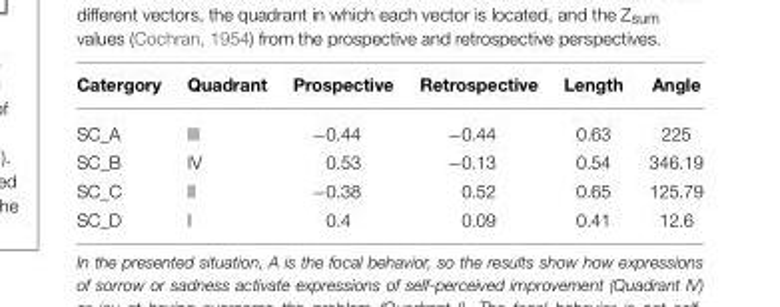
<table><thead><tr><td>Catergory</td><td>Quadrant</td><td>Prospective</td><td>Retrospective</td><td>Length</td><td>Angle</td></tr></thead><tbody><tr><td>SC_A</td><td>III</td><td>−0.44</td><td>−0.44</td><td>0.63</td><td>225</td></tr><tr><td>SC_B</td><td>IV</td><td>0.53</td><td>−0.13</td><td>0.54</td><td>346.19</td></tr><tr><td>SC_C</td><td>II</td><td>−0.38</td><td>0.52</td><td>0.65</td><td>125.79</td></tr><tr><td>SC_D</td><td>I</td><td>0.4</td><td>0.09</td><td>0.41</td><td>12.6</td></tr></tbody></table>